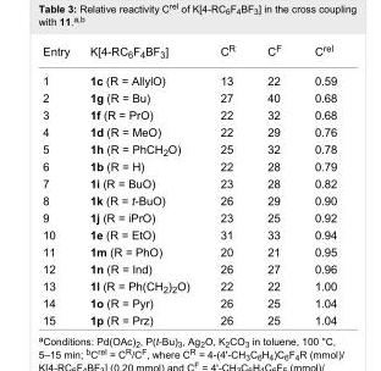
<table><tbody><tr><td>Entry</td><td>K[4-RC<sub>6</sub>F<sub>4</sub>BF<sub>3</sub>]</td><td>C<sup>R</sup></td><td>C<sup>F</sup></td><td>C<sup>rel</sup></td></tr><tr><td>1</td><td>1c (R = AllylO)</td><td>13</td><td>22</td><td>0.59</td></tr><tr><td>2</td><td>1g (R = Bu)</td><td>27</td><td>40</td><td>0.68</td></tr><tr><td>3</td><td>1f (R = PrO)</td><td>22</td><td>32</td><td>0.68</td></tr><tr><td>4</td><td>1d (R = MeO)</td><td>22</td><td>29</td><td>0.76</td></tr><tr><td>5</td><td>1h (R = PhCH<sub>2</sub>O)</td><td>25</td><td>32</td><td>0.78</td></tr><tr><td>6</td><td>1b (R = H)</td><td>22</td><td>28</td><td>0.79</td></tr><tr><td>7</td><td>1i (R = BuO)</td><td>23</td><td>28</td><td>0.82</td></tr><tr><td>8</td><td>1k (R = t-BuO)</td><td>26</td><td>29</td><td>0.90</td></tr><tr><td>9</td><td>1j (R = iPrO)</td><td>23</td><td>25</td><td>0.92</td></tr><tr><td>10</td><td>1e (R = EtO)</td><td>31</td><td>33</td><td>0.94</td></tr><tr><td>11</td><td>1m (R = PhO)</td><td>20</td><td>21</td><td>0.95</td></tr><tr><td>12</td><td>1n (R = Ind)</td><td>26</td><td>27</td><td>0.96</td></tr><tr><td>13</td><td>1l (R = Ph(CH<sub>2</sub>)<sub>2</sub>O)</td><td>22</td><td>22</td><td>1.00</td></tr><tr><td>14</td><td>1o (R = Pyr)</td><td>26</td><td>25</td><td>1.04</td></tr><tr><td>15</td><td>1p (R = Prz)</td><td>26</td><td>25</td><td>1.04</td></tr></tbody></table>